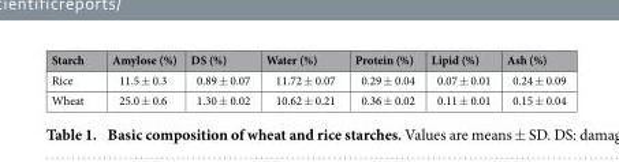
<table><thead><tr><td>Starch</td><td>Amylose (%)</td><td>DS (%)</td><td>Water (%)</td><td>Protein (%)</td><td>Lipid (%)</td><td>Ash (%)</td></tr></thead><tbody><tr><td>Rice</td><td>11.5 ± 0.3</td><td>0.89 ± 0.07</td><td>11.72 ± 0.07</td><td>0.29 ± 0.04</td><td>0.07 ± 0.01</td><td>0.24 ± 0.09</td></tr><tr><td>Wheat</td><td>25.0 ± 0.6</td><td>1.30 ± 0.02</td><td>10.62 ± 0.21</td><td>0.36 ± 0.02</td><td>0.11 ± 0.01</td><td>0.15 ± 0.04</td></tr></tbody></table>